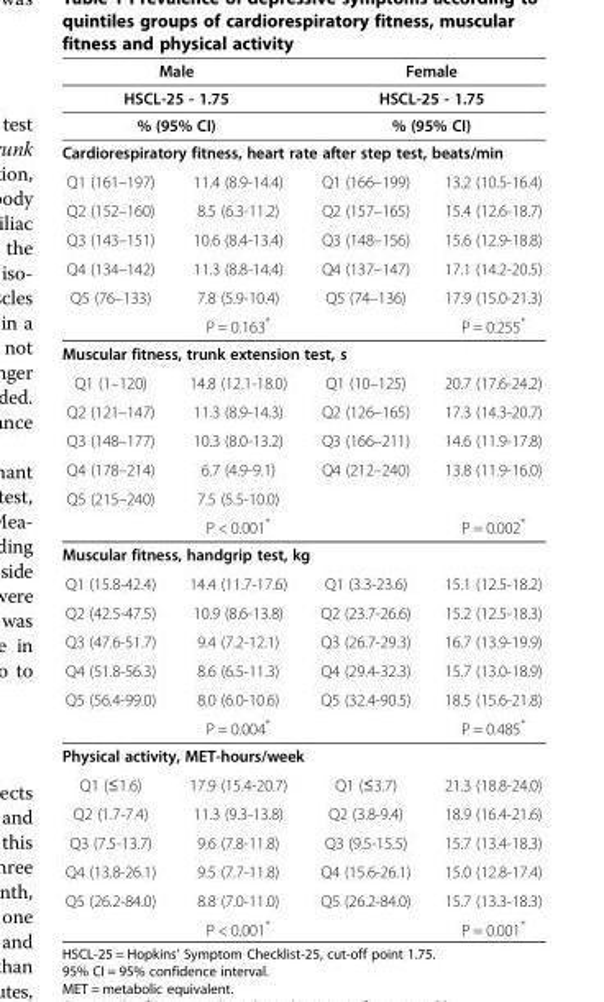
<table><thead><tr><td rowspan="3" colspan="2">Male HSCL-25 - 1.75 % (95% CI)</td><td rowspan="3" colspan="2">Female HSCL-25 - 1.75 % (95% CI)</td></tr><tr></tr><tr></tr><tr><td colspan="4">Cardiorespiratory fitness, heart rate after step test, beats/min</td></tr><tr><td>Q1 (161–197)</td><td>11.4 (8.9-14.4)</td><td>Q1 (166–199)</td><td>13.2 (10.5-16.4)</td></tr></thead><tbody><tr><td>Q2 (152–160)</td><td>8.5 (6.3-11.2)</td><td>Q2 (157–165)</td><td>15.4 (12.6-18.7)</td></tr><tr><td>Q3 (143–151)</td><td>10.6 (8.4-13.4)</td><td>Q3 (148–156)</td><td>15.6 (12.9-18.8)</td></tr><tr><td>Q4 (134–142)</td><td>11.3 (8.8-14.4)</td><td>Q4 (137–147)</td><td>17.1 (14.2-20.5)</td></tr><tr><td rowspan="2">Q5 (76–133)</td><td>7.8 (5.9-10.4)</td><td>Q5 (74–136)</td><td>17.9 (15.0-21.3)</td></tr><tr><td>P = 0.163*</td><td></td><td>P = 0.255*</td></tr><tr><td colspan="4">Muscular fitness, trunk extension test, s</td></tr><tr><td>Q1 (1–120)</td><td>14.8 (12.1-18.0)</td><td>Q1 (10–125)</td><td>20.7 (17.6-24.2)</td></tr><tr><td>Q2 (121–147)</td><td>11.3 (8.9-14.3)</td><td>Q2 (126–165)</td><td>17.3 (14.3-20.7)</td></tr><tr><td>Q3 (148–177)</td><td>10.3 (8.0-13.2)</td><td>Q3 (166–211)</td><td>14.6 (11.9-17.8)</td></tr><tr><td>Q4 (178–214)</td><td>6.7 (4.9-9.1)</td><td>Q4 (212–240)</td><td>13.8 (11.9-16.0)</td></tr><tr><td rowspan="2">Q5 (215–240)</td><td>7.5 (5.5-10.0)</td><td></td><td></td></tr><tr><td>P &lt; 0.001*</td><td></td><td>P = 0.002*</td></tr><tr><td colspan="4">Muscular fitness, handgrip test, kg</td></tr><tr><td>Q1 (15.8-42.4)</td><td>14.4 (11.7-17.6)</td><td>Q1 (3.3-23.6)</td><td>15.1 (12.5-18.2)</td></tr><tr><td>Q2 (42.5-47.5)</td><td>10.9 (8.6-13.8)</td><td>Q2 (23.7-26.6)</td><td>15.2 (12.5-18.3)</td></tr><tr><td>Q3 (47.6-51.7)</td><td>9.4 (7.2-12.1)</td><td>Q3 (26.7-29.3)</td><td>16.7 (13.9-19.9)</td></tr><tr><td>Q4 (51.8-56.3)</td><td>8.6 (6.5-11.3)</td><td>Q4 (29.4-32.3)</td><td>15.7 (13.0-18.9)</td></tr><tr><td rowspan="2">Q5 (56.4-99.0)</td><td>8.0 (6.0-10.6)</td><td>Q5 (32.4-90.5)</td><td>18.5 (15.6-21.8)</td></tr><tr><td>P = 0.004*</td><td></td><td>P = 0.485*</td></tr><tr><td colspan="4">Physical activity, MET-hours/week</td></tr><tr><td>Q1 (≤1.6)</td><td>17.9 (15.4-20.7)</td><td>Q1 (≤3.7)</td><td>21.3 (18.8-24.0)</td></tr><tr><td>Q2 (1.7-7.4)</td><td>11.3 (9.3-13.8)</td><td>Q2 (3.8-9.4)</td><td>18.9 (16.4-21.6)</td></tr><tr><td>Q3 (7.5-13.7)</td><td>9.6 (7.8-11.8)</td><td>Q3 (9.5-15.5)</td><td>15.7 (13.4-18.3)</td></tr><tr><td>Q4 (13.8-26.1)</td><td>9.5 (7.7-11.8)</td><td>Q4 (15.6-26.1)</td><td>15.0 (12.8-17.4)</td></tr><tr><td rowspan="2">Q5 (26.2-84.0)</td><td>8.8 (7.0-11.0)</td><td>Q5 (26.2-84.0)</td><td>15.7 (13.3-18.3)</td></tr><tr><td>P &lt; 0.001*</td><td></td><td>P = 0.001*</td></tr></tbody></table>